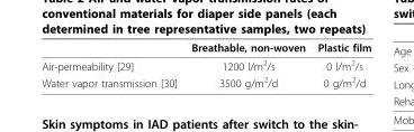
<table><thead><tr><td></td><td>Breathable, non-woven</td><td>Plastic film</td></tr></thead><tbody><tr><td>Air-permeability [29]</td><td>1200 l/m<sup>2</sup>/s</td><td>0 l/m<sup>2</sup>/s</td></tr><tr><td>Water vapor transmission [30]</td><td>3500 g/m<sup>2</sup>/d</td><td>0 g/m<sup>2</sup>/d</td></tr></tbody></table>